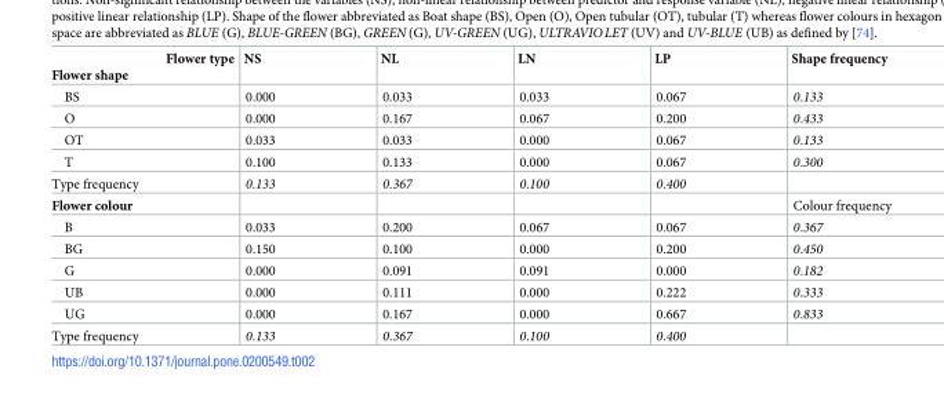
<table><thead><tr><td>Flower type Flower shape</td><td>NS</td><td>NL</td><td>LN</td><td>LP</td><td>Shape frequency</td></tr></thead><tbody><tr><td>BS</td><td>0.000</td><td>0.033</td><td>0.033</td><td>0.067</td><td>0.133</td></tr><tr><td>O</td><td>0.000</td><td>0.167</td><td>0.067</td><td>0.200</td><td>0.433</td></tr><tr><td>OT</td><td>0.033</td><td>0.033</td><td>0.000</td><td>0.067</td><td>0.133</td></tr><tr><td>T</td><td>0.100</td><td>0.133</td><td>0.000</td><td>0.067</td><td>0.300</td></tr><tr><td>Type frequency</td><td>0.133</td><td>0.367</td><td>0.100</td><td>0.400</td><td></td></tr><tr><td>Flower colour</td><td></td><td></td><td></td><td></td><td>Colour frequency</td></tr><tr><td>B</td><td>0.033</td><td>0.200</td><td>0.067</td><td>0.067</td><td>0.367</td></tr><tr><td>BG</td><td>0.150</td><td>0.100</td><td>0.000</td><td>0.200</td><td>0.450</td></tr><tr><td>G</td><td>0.000</td><td>0.091</td><td>0.091</td><td>0.000</td><td>0.182</td></tr><tr><td>UB</td><td>0.000</td><td>0.111</td><td>0.000</td><td>0.222</td><td>0.333</td></tr><tr><td>UG</td><td>0.000</td><td>0.167</td><td>0.000</td><td>0.667</td><td>0.833</td></tr><tr><td>Type frequency</td><td>0.133</td><td>0.367</td><td>0.100</td><td>0.400</td><td></td></tr></tbody></table>